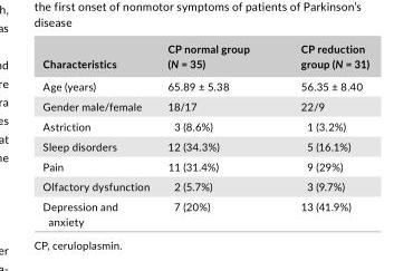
<table><thead><tr><td>Characteristics</td><td>CP normal group (N = 35)</td><td>CP reduction group (N = 31)</td></tr></thead><tbody><tr><td>Age (years)</td><td>65.89 ± 5.38</td><td>56.35 ± 8.40</td></tr><tr><td>Gender male/female</td><td>18/17</td><td>22/9</td></tr><tr><td>Astriction</td><td>3 (8.6%)</td><td>1 (3.2%)</td></tr><tr><td>Sleep disorders</td><td>12 (34.3%)</td><td>5 (16.1%)</td></tr><tr><td>Pain</td><td>11 (31.4%)</td><td>9 (29%)</td></tr><tr><td>Olfactory dysfunction</td><td>2 (5.7%)</td><td>3 (9.7%)</td></tr><tr><td>Depression and anxiety</td><td>7 (20%)</td><td>13 (41.9%)</td></tr></tbody></table>